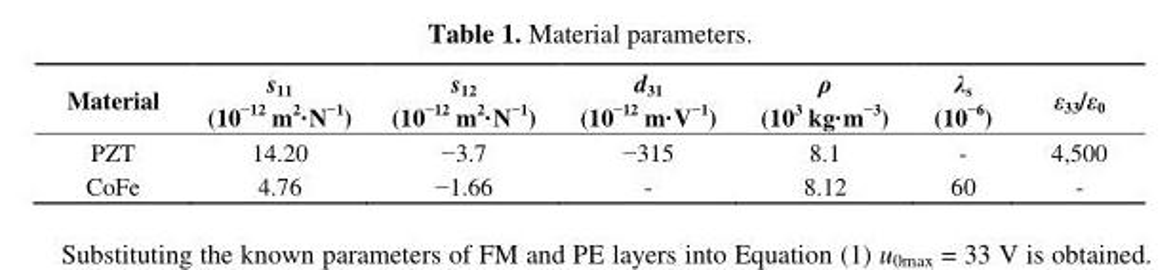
<table><thead><tr><td>Material</td><td>s<sub>11</sub> (10<sup>−12</sup> m<sup>2</sup>·N<sup>−1</sup>)</td><td>s<sub>12</sub> (10<sup>−12</sup> m<sup>2</sup>·N<sup>−1</sup>)</td><td>d<sub>31</sub> (10<sup>−12</sup> m·V<sup>−1</sup>)</td><td>ρ (10<sup>3</sup> kg·m<sup>−3</sup>)</td><td>λ<sub>s</sub> (10<sup>−6</sup>)</td><td>ε<sub>33</sub>/ε<sub>0</sub></td></tr></thead><tbody><tr><td>PZT</td><td>14.20</td><td>−3.7</td><td>−315</td><td>8.1</td><td>-</td><td>4,500</td></tr><tr><td>CoFe</td><td>4.76</td><td>−1.66</td><td>-</td><td>8.12</td><td>60</td><td>-</td></tr></tbody></table>